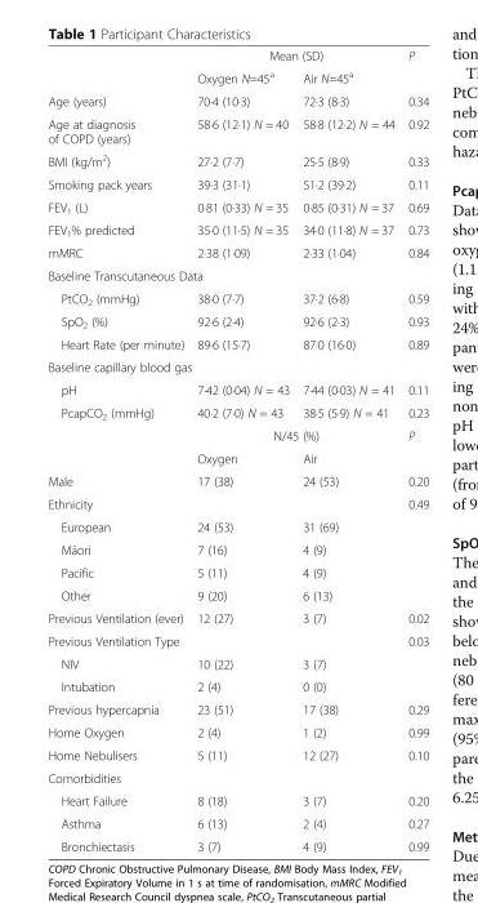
<table><thead><tr><td rowspan="2"></td><td colspan="2">Mean (SD)</td><td rowspan="2">P</td></tr><tr><td>Oxygen N=45<sup>a</sup></td><td>Air N=45<sup>a</sup></td></tr></thead><tbody><tr><td>Age (years)</td><td>70·4 (10·3)</td><td>72·3 (8·3)</td><td>0.34</td></tr><tr><td>Age at diagnosis of COPD (years)</td><td>58·6 (12·1) N = 40</td><td>58·8 (12·2) N = 44</td><td>0.92</td></tr><tr><td>BMI (kg/m<sup>2</sup>)</td><td>27·2 (7·7)</td><td>25·5 (8·9)</td><td>0.33</td></tr><tr><td>Smoking pack years</td><td>39·3 (31·1)</td><td>51·2 (39·2)</td><td>0.11</td></tr><tr><td>FEV<sub>1</sub> (L)</td><td>0·81 (0·33) N = 35</td><td>0·85 (0·31) N = 37</td><td>0.69</td></tr><tr><td>FEV<sub>1</sub>% predicted</td><td>35·0 (11·5) N = 35</td><td>34·0 (11·8) N = 37</td><td>0.73</td></tr><tr><td>mMRC</td><td>2·38 (1·09)</td><td>2·33 (1·04)</td><td>0.84</td></tr><tr><td colspan="4">Baseline Transcutaneous Data</td></tr><tr><td>PtCO<sub>2</sub> (mmHg)</td><td>38·0 (7·7)</td><td>37·2 (6·8)</td><td>0.59</td></tr><tr><td>SpO<sub>2</sub> (%)</td><td>92·6 (2·4)</td><td>92·6 (2·3)</td><td>0.93</td></tr><tr><td>Heart Rate (per minute)</td><td>89·6 (15·7)</td><td>87·0 (16·0)</td><td>0.89</td></tr><tr><td colspan="4">Baseline capillary blood gas</td></tr><tr><td>pH</td><td>7·42 (0·04) N = 43</td><td>7·44 (0·03) N = 41</td><td>0.11</td></tr><tr><td rowspan="3">PcapCO<sub>2</sub> (mmHg)</td><td>40·2 (7·0) N = 43</td><td>38·5 (5·9) N = 41</td><td>0.23</td></tr><tr><td colspan="2">N/45 (%)</td><td rowspan="2">P</td></tr><tr><td>Oxygen</td><td>Air</td></tr><tr><td>Male</td><td>17 (38)</td><td>24 (53)</td><td>0.20</td></tr><tr><td>Ethnicity</td><td></td><td></td><td>0.49</td></tr><tr><td>European</td><td>24 (53)</td><td>31 (69)</td><td></td></tr><tr><td>Māori</td><td>7 (16)</td><td>4 (9)</td><td></td></tr><tr><td>Pacific</td><td>5 (11)</td><td>4 (9)</td><td></td></tr><tr><td>Other</td><td>9 (20)</td><td>6 (13)</td><td></td></tr><tr><td>Previous Ventilation (ever)</td><td>12 (27)</td><td>3 (7)</td><td>0.02</td></tr><tr><td>Previous Ventilation Type</td><td></td><td></td><td>0.03</td></tr><tr><td>NIV</td><td>10 (22)</td><td>3 (7)</td><td></td></tr><tr><td>Intubation</td><td>2 (4)</td><td>0 (0)</td><td></td></tr><tr><td>Previous hypercapnia</td><td>23 (51)</td><td>17 (38)</td><td>0.29</td></tr><tr><td>Home Oxygen</td><td>2 (4)</td><td>1 (2)</td><td>0.99</td></tr><tr><td>Home Nebulisers</td><td>5 (11)</td><td>12 (27)</td><td>0.10</td></tr><tr><td colspan="4">Comorbidities</td></tr><tr><td>Heart Failure</td><td>8 (18)</td><td>3 (7)</td><td>0.20</td></tr><tr><td>Asthma</td><td>6 (13)</td><td>2 (4)</td><td>0.27</td></tr><tr><td>Bronchiectasis</td><td>3 (7)</td><td>4 (9)</td><td>0.99</td></tr></tbody></table>